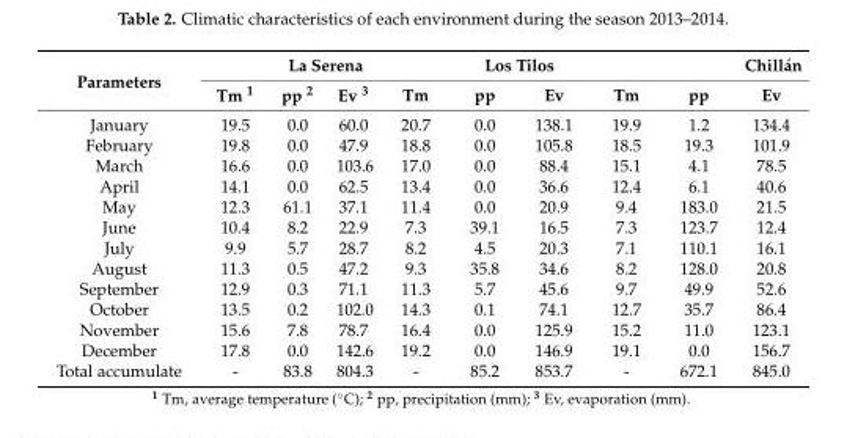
<table><thead><tr><td rowspan="2">Parameters</td><td rowspan="2">Tm <sup>1</sup></td><td colspan="2">La Serena</td><td rowspan="2">Tm</td><td colspan="2">Los Tilos</td><td rowspan="2">Tm</td><td rowspan="2">pp</td><td rowspan="2">Chillán Ev</td></tr><tr><td>pp <sup>2</sup></td><td>Ev <sup>3</sup></td><td>pp</td><td>Ev</td></tr></thead><tbody><tr><td>January</td><td>19.5</td><td>0.0</td><td>60.0</td><td>20.7</td><td>0.0</td><td>138.1</td><td>19.9</td><td>1.2</td><td>134.4</td></tr><tr><td>February</td><td>19.8</td><td>0.0</td><td>47.9</td><td>18.8</td><td>0.0</td><td>105.8</td><td>18.5</td><td>19.3</td><td>101.9</td></tr><tr><td>March</td><td>16.6</td><td>0.0</td><td>103.6</td><td>17.0</td><td>0.0</td><td>88.4</td><td>15.1</td><td>4.1</td><td>78.5</td></tr><tr><td>April</td><td>14.1</td><td>0.0</td><td>62.5</td><td>13.4</td><td>0.0</td><td>36.6</td><td>12.4</td><td>6.1</td><td>40.6</td></tr><tr><td>May</td><td>12.3</td><td>61.1</td><td>37.1</td><td>11.4</td><td>0.0</td><td>20.9</td><td>9.4</td><td>183.0</td><td>21.5</td></tr><tr><td>June</td><td>10.4</td><td>8.2</td><td>22.9</td><td>7.3</td><td>39.1</td><td>16.5</td><td>7.3</td><td>123.7</td><td>12.4</td></tr><tr><td>July</td><td>9.9</td><td>5.7</td><td>28.7</td><td>8.2</td><td>4.5</td><td>20.3</td><td>7.1</td><td>110.1</td><td>16.1</td></tr><tr><td>August</td><td>11.3</td><td>0.5</td><td>47.2</td><td>9.3</td><td>35.8</td><td>34.6</td><td>8.2</td><td>128.0</td><td>20.8</td></tr><tr><td>September</td><td>12.9</td><td>0.3</td><td>71.1</td><td>11.3</td><td>5.7</td><td>45.6</td><td>9.7</td><td>49.9</td><td>52.6</td></tr><tr><td>October</td><td>13.5</td><td>0.2</td><td>102.0</td><td>14.3</td><td>0.1</td><td>74.1</td><td>12.7</td><td>35.7</td><td>86.4</td></tr><tr><td>November</td><td>15.6</td><td>7.8</td><td>78.7</td><td>16.4</td><td>0.0</td><td>125.9</td><td>15.2</td><td>11.0</td><td>123.1</td></tr><tr><td>December</td><td>17.8</td><td>0.0</td><td>142.6</td><td>19.2</td><td>0.0</td><td>146.9</td><td>19.1</td><td>0.0</td><td>156.7</td></tr><tr><td>Total accumulate</td><td>-</td><td>83.8</td><td>804.3</td><td>-</td><td>85.2</td><td>853.7</td><td>-</td><td>672.1</td><td>845.0</td></tr></tbody></table>